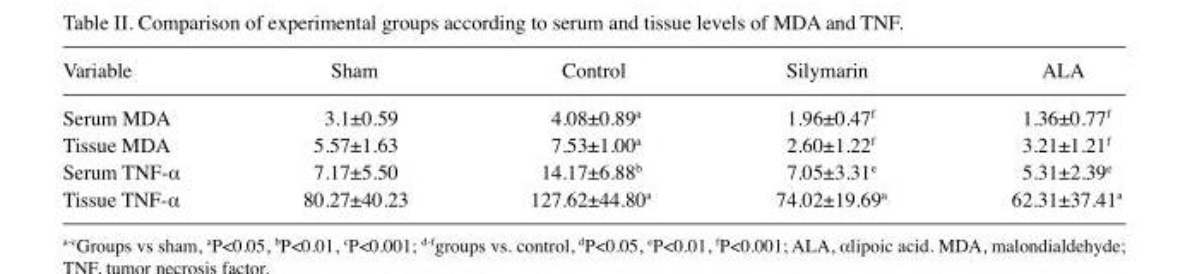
<table><thead><tr><td>Variable</td><td>Sham</td><td>Control</td><td>Silymarin</td><td>ALA</td></tr></thead><tbody><tr><td>Serum MDA</td><td>3.1±0.59</td><td>4.08±0.89<sup>a</sup></td><td>1.96±0.47<sup>f</sup></td><td>1.36±0.77<sup>f</sup></td></tr><tr><td>Tissue MDA</td><td>5.57±1.63</td><td>7.53±1.00<sup>a</sup></td><td>2.60±1.22<sup>f</sup></td><td>3.21±1.21<sup>f</sup></td></tr><tr><td>Serum TNF-α</td><td>7.17±5.50</td><td>14.17±6.88<sup>b</sup></td><td>7.05±3.31<sup>e</sup></td><td>5.31±2.39<sup>e</sup></td></tr><tr><td>Tissue TNF-α</td><td>80.27±40.23</td><td>127.62±44.80<sup>a</sup></td><td>74.02±19.69<sup>a</sup></td><td>62.31±37.41<sup>a</sup></td></tr></tbody></table>